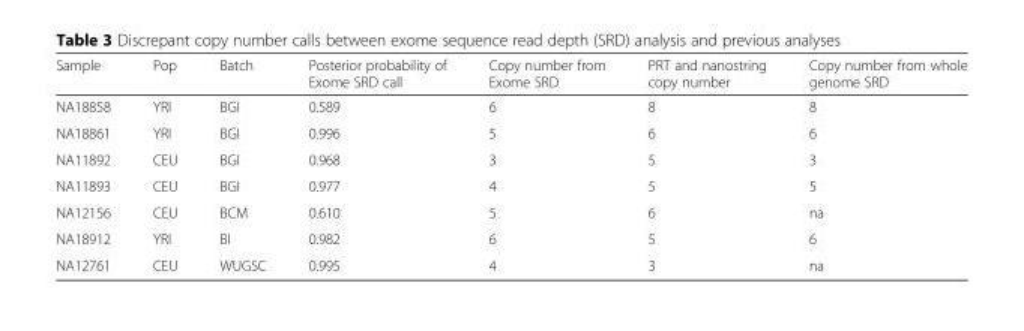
<table><thead><tr><td>Sample</td><td>Pop</td><td>Batch</td><td>Posterior probability of Exome SRD call</td><td>Copy number from Exome SRD</td><td>PRT and nanostring copy number</td><td>Copy number from whole genome SRD</td></tr></thead><tbody><tr><td>NA18858</td><td>YRI</td><td>BGI</td><td>0.589</td><td>6</td><td>8</td><td>8</td></tr><tr><td>NA18861</td><td>YRI</td><td>BGI</td><td>0.996</td><td>5</td><td>6</td><td>6</td></tr><tr><td>NA11892</td><td>CEU</td><td>BGI</td><td>0.968</td><td>3</td><td>5</td><td>3</td></tr><tr><td>NA11893</td><td>CEU</td><td>BGI</td><td>0.977</td><td>4</td><td>5</td><td>5</td></tr><tr><td>NA12156</td><td>CEU</td><td>BCM</td><td>0.610</td><td>5</td><td>6</td><td>na</td></tr><tr><td>NA18912</td><td>YRI</td><td>BI</td><td>0.982</td><td>6</td><td>5</td><td>6</td></tr><tr><td>NA12761</td><td>CEU</td><td>WUGSC</td><td>0.995</td><td>4</td><td>3</td><td>na</td></tr></tbody></table>